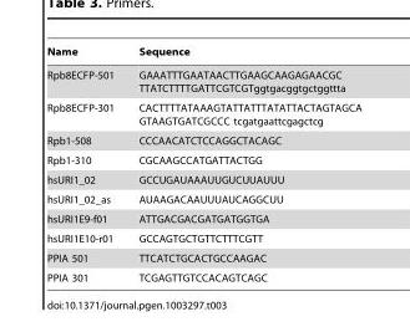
<table><thead><tr><td>Name</td><td>Sequence</td></tr></thead><tbody><tr><td>Rpb8ECFP-501</td><td>GAAATTTGAATAACTTGAAGCAAGAGAACGC TTATCTTTTGATTCGTCGTggtgacggtgctggttta</td></tr><tr><td>Rpb8ECFP-301</td><td>CACTTTTATAAAGTATTATTTATATTACTAGTAGCA GTAAGTGATCGCCC tcgatgaattcgagctcg</td></tr><tr><td>Rpb1-508</td><td>CCCAACATCTCCAGGCTACAGC</td></tr><tr><td>Rpb1-310</td><td>CGCAAGCCATGATTACTGG</td></tr><tr><td>hsURI1_02</td><td>GCCUGAUAAAUUGUCUUAUUU</td></tr><tr><td>hsURI1_02_as</td><td>AUAAGACAAUUUAUCAGGCUU</td></tr><tr><td>hsURI1E9-f01</td><td>ATTGACGACGATGATGGTGA</td></tr><tr><td>hsURI1E10-r01</td><td>GCCAGTGCTGTTCTTTCGTT</td></tr><tr><td>PPIA 501</td><td>TTCATCTGCACTGCCAAGAC</td></tr><tr><td>PPIA 301</td><td>TCGAGTTGTCCACAGTCAGC</td></tr></tbody></table>